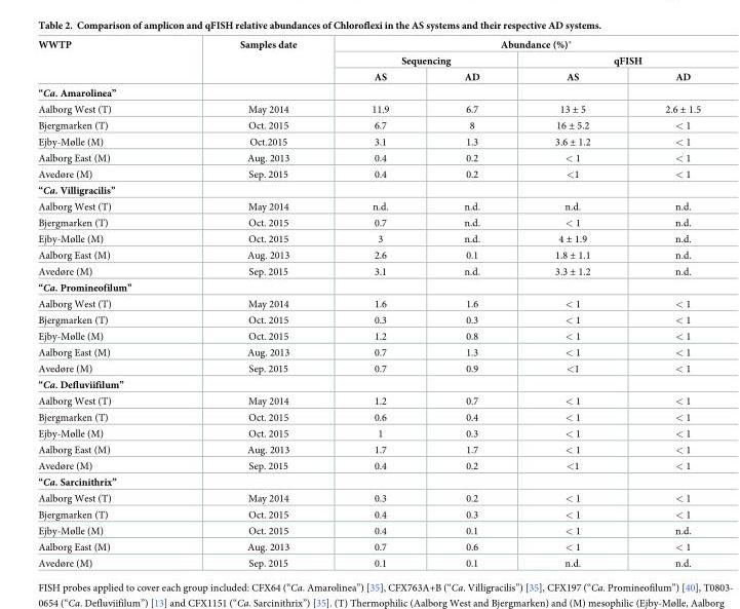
<table><thead><tr><td rowspan="3">WWTP</td><td rowspan="3">Samples date</td><td colspan="4">Abundance (%)*</td></tr><tr><td colspan="2">Sequencing</td><td colspan="2">qFISH</td></tr><tr><td>AS</td><td>AD</td><td>AS</td><td>AD</td></tr></thead><tbody><tr><td colspan="6">“Ca. Amarolinea”</td></tr><tr><td>Aalborg West (T)</td><td>May 2014</td><td>11.9</td><td>6.7</td><td>13 ± 5</td><td>2.6 ± 1.5</td></tr><tr><td>Bjergmarken (T)</td><td>Oct. 2015</td><td>6.7</td><td>8</td><td>16 ± 5.2</td><td>&lt; 1</td></tr><tr><td>Ejby-Mølle (M)</td><td>Oct.2015</td><td>3.1</td><td>1.3</td><td>3.6 ± 1.2</td><td>&lt; 1</td></tr><tr><td>Aalborg East (M)</td><td>Aug. 2013</td><td>0.4</td><td>0.2</td><td>&lt; 1</td><td>&lt; 1</td></tr><tr><td>Avedøre (M)</td><td>Sep. 2015</td><td>0.4</td><td>0.2</td><td>&lt;1</td><td>&lt; 1</td></tr><tr><td colspan="6">“Ca. Villigracilis”</td></tr><tr><td>Aalborg West (T)</td><td>May 2014</td><td>n.d.</td><td>n.d.</td><td>n.d.</td><td>n.d.</td></tr><tr><td>Bjergmarken (T)</td><td>Oct. 2015</td><td>0.7</td><td>n.d.</td><td>&lt; 1</td><td>n.d.</td></tr><tr><td>Ejby-Mølle (M)</td><td>Oct. 2015</td><td>3</td><td>n.d.</td><td>4 ± 1.9</td><td>n.d.</td></tr><tr><td>Aalborg East (M)</td><td>Aug. 2013</td><td>2.6</td><td>0.1</td><td>1.8 ± 1.1</td><td>n.d.</td></tr><tr><td>Avedøre (M)</td><td>Sep. 2015</td><td>3.1</td><td>n.d.</td><td>3.3 ± 1.2</td><td>n.d.</td></tr><tr><td colspan="6">“Ca. Promineofilum”</td></tr><tr><td>Aalborg West (T)</td><td>May 2014</td><td>1.6</td><td>1.6</td><td>&lt; 1</td><td>&lt; 1</td></tr><tr><td>Bjergmarken (T)</td><td>Oct. 2015</td><td>0.3</td><td>0.3</td><td>&lt; 1</td><td>&lt; 1</td></tr><tr><td>Ejby-Mølle (M)</td><td>Oct. 2015</td><td>1.2</td><td>0.8</td><td>&lt; 1</td><td>&lt; 1</td></tr><tr><td>Aalborg East (M)</td><td>Aug. 2013</td><td>0.7</td><td>1.3</td><td>&lt; 1</td><td>&lt; 1</td></tr><tr><td>Avedøre (M)</td><td>Sep. 2015</td><td>0.7</td><td>0.9</td><td>&lt;1</td><td>&lt; 1</td></tr><tr><td colspan="6">“Ca. Defluviifilum”</td></tr><tr><td>Aalborg West (T)</td><td>May 2014</td><td>1.2</td><td>0.7</td><td>&lt; 1</td><td>&lt; 1</td></tr><tr><td>Bjergmarken (T)</td><td>Oct. 2015</td><td>0.6</td><td>0.4</td><td>&lt; 1</td><td>&lt; 1</td></tr><tr><td>Ejby-Mølle (M)</td><td>Oct. 2015</td><td>1</td><td>0.3</td><td>&lt; 1</td><td>&lt; 1</td></tr><tr><td>Aalborg East (M)</td><td>Aug. 2013</td><td>1.7</td><td>1.7</td><td>&lt; 1</td><td>&lt; 1</td></tr><tr><td>Avedøre (M)</td><td>Sep. 2015</td><td>0.4</td><td>0.2</td><td>&lt;1</td><td>&lt; 1</td></tr><tr><td colspan="6">“Ca. Sarcinithrix”</td></tr><tr><td>Aalborg West (T)</td><td>May 2014</td><td>0.3</td><td>0.2</td><td>&lt; 1</td><td>&lt; 1</td></tr><tr><td>Bjergmarken (T)</td><td>Oct. 2015</td><td>0.4</td><td>0.3</td><td>&lt; 1</td><td>&lt; 1</td></tr><tr><td>Ejby-Mølle (M)</td><td>Oct. 2015</td><td>0.4</td><td>0.1</td><td>&lt; 1</td><td>n.d.</td></tr><tr><td>Aalborg East (M)</td><td>Aug. 2013</td><td>0.7</td><td>0.6</td><td>&lt; 1</td><td>&lt; 1</td></tr><tr><td>Avedøre (M)</td><td>Sep. 2015</td><td>0.1</td><td>0.1</td><td>n.d.</td><td>n.d.</td></tr></tbody></table>